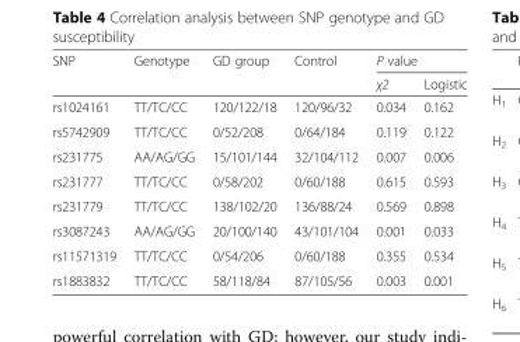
<table><thead><tr><td rowspan="2">SNP</td><td rowspan="2">Genotype</td><td rowspan="2">GD group</td><td rowspan="2">Control</td><td colspan="2">P value</td></tr><tr><td>χ2</td><td>Logistic</td></tr></thead><tbody><tr><td>rs1024161</td><td>TT/TC/CC</td><td>120/122/18</td><td>120/96/32</td><td>0.034</td><td>0.162</td></tr><tr><td>rs5742909</td><td>TT/TC/CC</td><td>0/52/208</td><td>0/64/184</td><td>0.119</td><td>0.122</td></tr><tr><td>rs231775</td><td>AA/AG/GG</td><td>15/101/144</td><td>32/104/112</td><td>0.007</td><td>0.006</td></tr><tr><td>rs231777</td><td>TT/TC/CC</td><td>0/58/202</td><td>0/60/188</td><td>0.615</td><td>0.593</td></tr><tr><td>rs231779</td><td>TT/TC/CC</td><td>138/102/20</td><td>136/88/24</td><td>0.569</td><td>0.898</td></tr><tr><td>rs3087243</td><td>AA/AG/GG</td><td>20/100/140</td><td>43/101/104</td><td>0.001</td><td>0.033</td></tr><tr><td>rs11571319</td><td>TT/TC/CC</td><td>0/54/206</td><td>0/60/188</td><td>0.355</td><td>0.534</td></tr><tr><td>rs1883832</td><td>TT/TC/CC</td><td>58/118/84</td><td>87/105/56</td><td>0.003</td><td>0.001</td></tr></tbody></table>